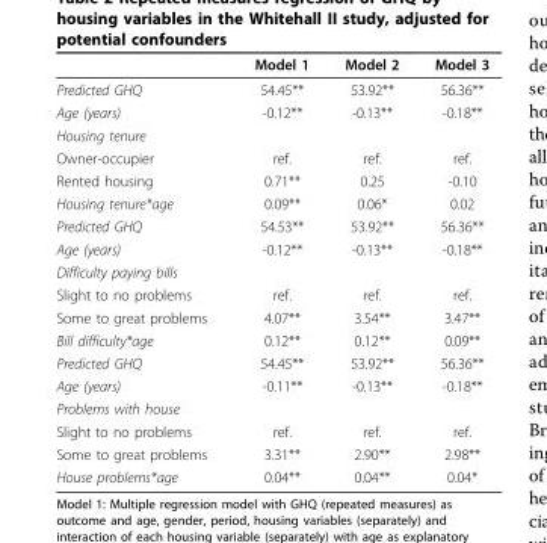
<table><thead><tr><td></td><td>Model 1</td><td>Model 2</td><td>Model 3</td></tr></thead><tbody><tr><td>Predicted GHQ</td><td>54.45**</td><td>53.92**</td><td>56.36**</td></tr><tr><td>Age (years)</td><td>-0.12**</td><td>-0.13**</td><td>-0.18**</td></tr><tr><td colspan="4">Housing tenure</td></tr><tr><td>Owner-occupier</td><td>ref.</td><td>ref.</td><td>ref.</td></tr><tr><td>Rented housing</td><td>0.71**</td><td>0.25</td><td>-0.10</td></tr><tr><td>Housing tenure*age</td><td>0.09**</td><td>0.06*</td><td>0.02</td></tr><tr><td>Predicted GHQ</td><td>54.53**</td><td>53.92**</td><td>56.36**</td></tr><tr><td>Age (years)</td><td>-0.12**</td><td>-0.13**</td><td>-0.18**</td></tr><tr><td colspan="4">Difficulty paying bills</td></tr><tr><td>Slight to no problems</td><td>ref.</td><td>ref.</td><td>ref.</td></tr><tr><td>Some to great problems</td><td>4.07**</td><td>3.54**</td><td>3.47**</td></tr><tr><td>Bill difficulty*age</td><td>0.12**</td><td>0.12**</td><td>0.09**</td></tr><tr><td>Predicted GHQ</td><td>54.45**</td><td>53.92**</td><td>56.36**</td></tr><tr><td>Age (years)</td><td>-0.11**</td><td>-0.13**</td><td>-0.18**</td></tr><tr><td colspan="4">Problems with house</td></tr><tr><td>Slight to no problems</td><td>ref.</td><td>ref.</td><td>ref.</td></tr><tr><td>Some to great problems</td><td>3.31**</td><td>2.90**</td><td>2.98**</td></tr><tr><td>House problems*age</td><td>0.04**</td><td>0.04**</td><td>0.04*</td></tr></tbody></table>